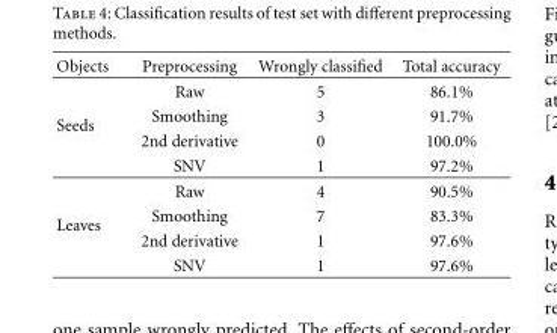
<table><thead><tr><td>Objects</td><td>Preprocessing</td><td>Wrongly classified</td><td>Total accuracy</td></tr></thead><tbody><tr><td rowspan="4">Seeds</td><td>Raw</td><td>5</td><td>86.1%</td></tr><tr><td>Smoothing</td><td>3</td><td>91.7%</td></tr><tr><td>2nd derivative</td><td>0</td><td>100.0%</td></tr><tr><td>SNV</td><td>1</td><td>97.2%</td></tr><tr><td rowspan="4">Leaves</td><td>Raw</td><td>4</td><td>90.5%</td></tr><tr><td>Smoothing</td><td>7</td><td>83.3%</td></tr><tr><td>2nd derivative</td><td>1</td><td>97.6%</td></tr><tr><td>SNV</td><td>1</td><td>97.6%</td></tr></tbody></table>